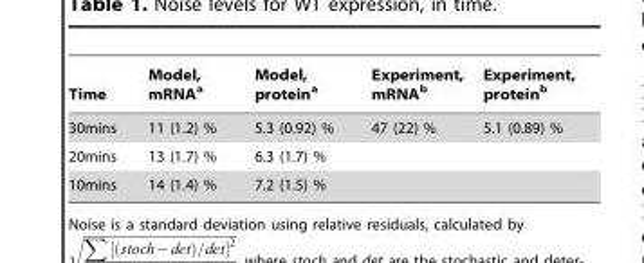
<table><thead><tr><td>Time</td><td>Model, mRNA<sup>a</sup></td><td>Model, protein<sup>a</sup></td><td>Experiment, mRNA<sup>b</sup></td><td>Experiment, protein<sup>b</sup></td></tr></thead><tbody><tr><td>30mins</td><td>11 (1.2) %</td><td>5.3 (0.92) %</td><td>47 (22) %</td><td>5.1 (0.89) %</td></tr><tr><td>20mins</td><td>13 (1.7) %</td><td>6.3 (1.7) %</td><td></td><td></td></tr><tr><td>10mins</td><td>14 (1.4) %</td><td>7.2 (1.5) %</td><td></td><td></td></tr></tbody></table>